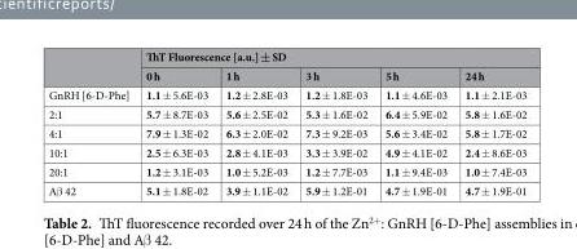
<table><thead><tr><td rowspan="2"></td><td colspan="5">ThT Fluorescence [a.u.] ± SD</td></tr><tr><td>0 h</td><td>1 h</td><td>3 h</td><td>5 h</td><td>24 h</td></tr></thead><tbody><tr><td>GnRH [6-D-Phe]</td><td>1.1 ± 5.6E-03</td><td>1.2 ± 2.8E-03</td><td>1.2 ± 1.8E-03</td><td>1.1 ± 4.6E-03</td><td>1.1 ± 2.1E-03</td></tr><tr><td>2:1</td><td>5.7 ± 8.7E-03</td><td>5.6 ± 2.5E-02</td><td>5.3 ± 1.6E-02</td><td>6.4 ± 5.9E-02</td><td>5.8 ± 1.6E-02</td></tr><tr><td>4:1</td><td>7.9 ± 1.3E-02</td><td>6.3 ± 2.0E-02</td><td>7.3 ± 9.2E-03</td><td>5.6 ± 3.4E-02</td><td>5.8 ± 1.7E-02</td></tr><tr><td>10:1</td><td>2.5 ± 6.3E-03</td><td>2.8 ± 4.1E-03</td><td>3.3 ± 3.9E-02</td><td>4.9 ± 4.1E-02</td><td>2.4 ± 8.6E-03</td></tr><tr><td>20:1</td><td>1.2 ± 3.1E-03</td><td>1.0 ± 5.2E-03</td><td>1.2 ± 7.7E-03</td><td>1.1 ± 9.4E-03</td><td>1.0 ± 7.4E-03</td></tr><tr><td>Aβ 42</td><td>5.1 ± 1.8E-02</td><td>3.9 ± 1.1E-02</td><td>5.9 ± 1.2E-01</td><td>4.7 ± 1.9E-01</td><td>4.7 ± 1.9E-01</td></tr></tbody></table>